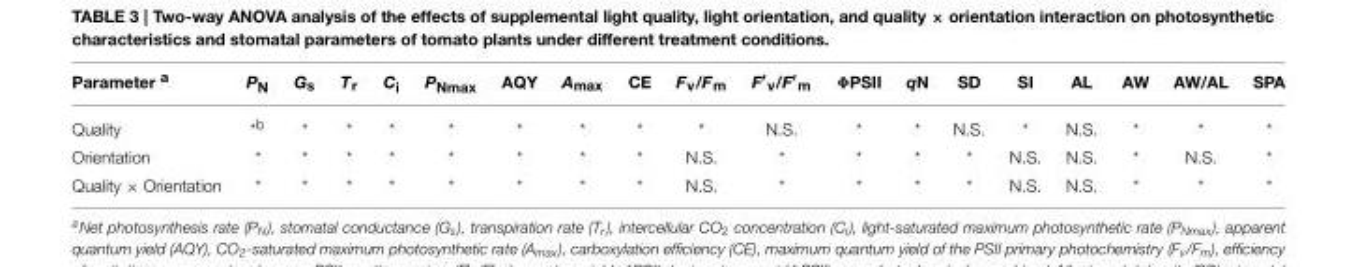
<table><thead><tr><td>Parameter <sup>a</sup></td><td>P<sub>N</sub></td><td>G<sub>s</sub></td><td>T<sub>r</sub></td><td>C<sub>i</sub></td><td>P<sub>Nmax</sub></td><td>AQY</td><td>A<sub>max</sub></td><td>CE</td><td>F<sub>v</sub>/F<sub>m</sub></td><td>F′<sub>v</sub>/F′<sub>m</sub></td><td>ΦPSII</td><td>qN</td><td>SD</td><td>SI</td><td>AL</td><td>AW</td><td>AW/AL</td><td>SPA</td></tr></thead><tbody><tr><td>Quality</td><td><sup>*b</sup></td><td>*</td><td>*</td><td>*</td><td>*</td><td>*</td><td>*</td><td>*</td><td>*</td><td>N.S.</td><td>*</td><td>*</td><td>N.S.</td><td>*</td><td>N.S.</td><td>*</td><td>*</td><td>*</td></tr><tr><td>Orientation</td><td>*</td><td>*</td><td>*</td><td>*</td><td>*</td><td>*</td><td>*</td><td>*</td><td>N.S.</td><td>*</td><td>*</td><td>*</td><td>*</td><td>N.S.</td><td>N.S.</td><td>*</td><td>N.S.</td><td>*</td></tr><tr><td>Quality × Orientation</td><td>*</td><td>*</td><td>*</td><td>*</td><td>*</td><td>*</td><td>*</td><td>*</td><td>N.S.</td><td>*</td><td>*</td><td>*</td><td>*</td><td>N.S.</td><td>N.S.</td><td>*</td><td>*</td><td>*</td></tr></tbody></table>